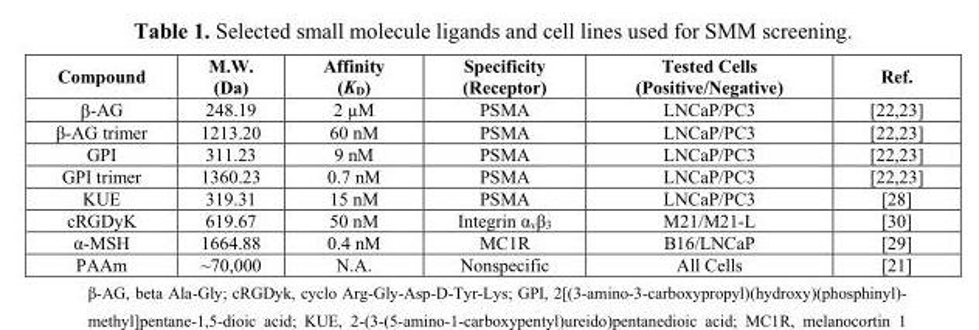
<table><thead><tr><td>Compound</td><td>M.W. (Da)</td><td>Affinity (K<sub>D</sub>)</td><td>Specificity (Receptor)</td><td>Tested Cells (Positive/Negative)</td><td>Ref.</td></tr></thead><tbody><tr><td>β-AG</td><td>248.19</td><td>2 µM</td><td>PSMA</td><td>LNCaP/PC3</td><td>[22,23]</td></tr><tr><td>β-AG trimer</td><td>1213.20</td><td>60 nM</td><td>PSMA</td><td>LNCaP/PC3</td><td>[22,23]</td></tr><tr><td>GPI</td><td>311.23</td><td>9 nM</td><td>PSMA</td><td>LNCaP/PC3</td><td>[22,23]</td></tr><tr><td>GPI trimer</td><td>1360.23</td><td>0.7 nM</td><td>PSMA</td><td>LNCaP/PC3</td><td>[22,23]</td></tr><tr><td>KUE</td><td>319.31</td><td>15 nM</td><td>PSMA</td><td>LNCaP/PC3</td><td>[28]</td></tr><tr><td>cRGDyK</td><td>619.67</td><td>50 nM</td><td>Integrin α<sub>v</sub>β<sub>3</sub></td><td>M21/M21-L</td><td>[30]</td></tr><tr><td>α-MSH</td><td>1664.88</td><td>0.4 nM</td><td>MC1R</td><td>B16/LNCaP</td><td>[29]</td></tr><tr><td>PAAm</td><td>~70,000</td><td>N.A.</td><td>Nonspecific</td><td>All Cells</td><td>[21]</td></tr></tbody></table>